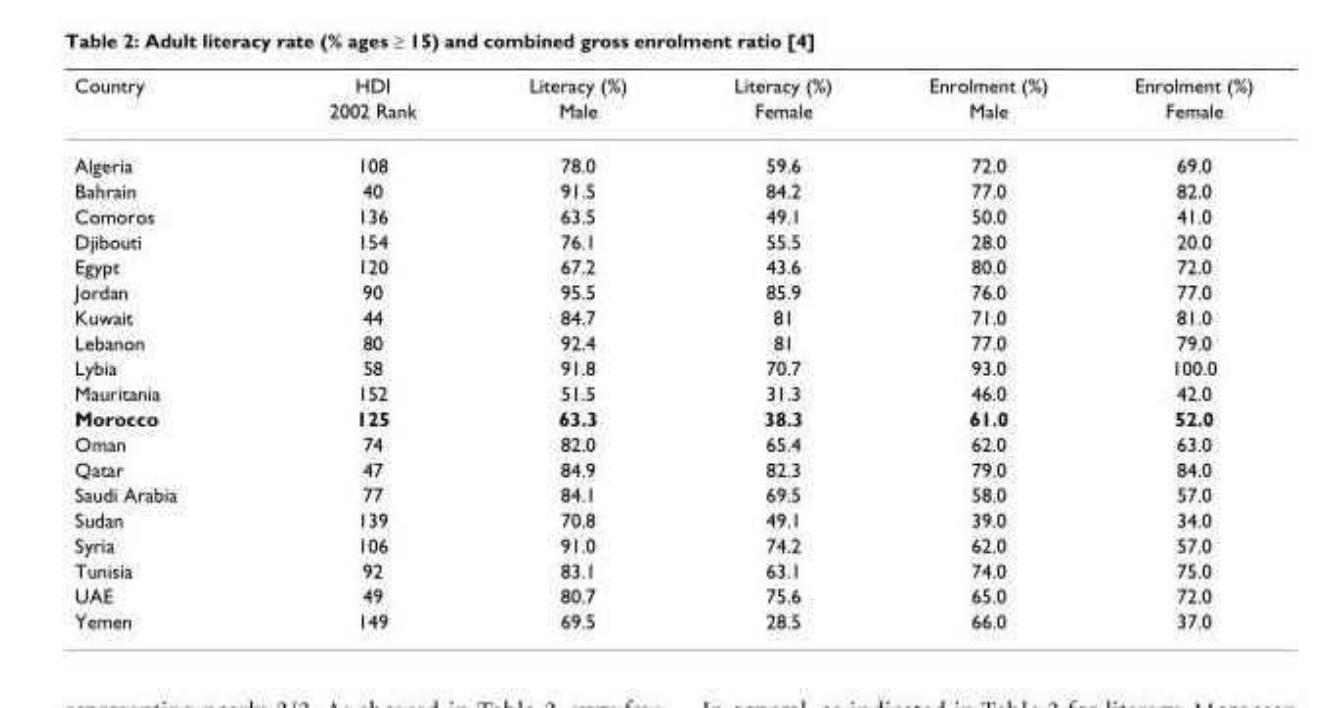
<table><thead><tr><td rowspan="2">Country</td><td rowspan="2">HDI 2002 Rank</td><td rowspan="2">Literacy (%) Male</td><td rowspan="2">Literacy (%) Female</td><td rowspan="2">Enrolment (%) Male</td><td rowspan="2">Enrolment (%) Female</td></tr><tr></tr></thead><tbody><tr><td>Algeria</td><td>108</td><td>78.0</td><td>59.6</td><td>72.0</td><td>69.0</td></tr><tr><td>Bahrain</td><td>40</td><td>91.5</td><td>84.2</td><td>77.0</td><td>82.0</td></tr><tr><td>Comoros</td><td>136</td><td>63.5</td><td>49.1</td><td>50.0</td><td>41.0</td></tr><tr><td>Djibouti</td><td>154</td><td>76.1</td><td>55.5</td><td>28.0</td><td>20.0</td></tr><tr><td>Egypt</td><td>120</td><td>67.2</td><td>43.6</td><td>80.0</td><td>72.0</td></tr><tr><td>Jordan</td><td>90</td><td>95.5</td><td>85.9</td><td>76.0</td><td>77.0</td></tr><tr><td>Kuwait</td><td>44</td><td>84.7</td><td>81</td><td>71.0</td><td>81.0</td></tr><tr><td>Lebanon</td><td>80</td><td>92.4</td><td>81</td><td>77.0</td><td>79.0</td></tr><tr><td>Lybia</td><td>58</td><td>91.8</td><td>70.7</td><td>93.0</td><td>100.0</td></tr><tr><td>Mauritania</td><td>152</td><td>51.5</td><td>31.3</td><td>46.0</td><td>42.0</td></tr><tr><td>Morocco</td><td>125</td><td>63.3</td><td>38.3</td><td>61.0</td><td>52.0</td></tr><tr><td>Oman</td><td>74</td><td>82.0</td><td>65.4</td><td>62.0</td><td>63.0</td></tr><tr><td>Qatar</td><td>47</td><td>84.9</td><td>82.3</td><td>79.0</td><td>84.0</td></tr><tr><td>Saudi Arabia</td><td>77</td><td>84.1</td><td>69.5</td><td>58.0</td><td>57.0</td></tr><tr><td>Sudan</td><td>139</td><td>70.8</td><td>49.1</td><td>39.0</td><td>34.0</td></tr><tr><td>Syria</td><td>106</td><td>91.0</td><td>74.2</td><td>62.0</td><td>57.0</td></tr><tr><td>Tunisia</td><td>92</td><td>83.1</td><td>63.1</td><td>74.0</td><td>75.0</td></tr><tr><td>UAE</td><td>49</td><td>80.7</td><td>75.6</td><td>65.0</td><td>72.0</td></tr><tr><td>Yemen</td><td>149</td><td>69.5</td><td>28.5</td><td>66.0</td><td>37.0</td></tr></tbody></table>